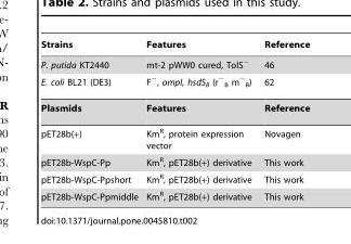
<table><thead><tr><td>Strains</td><td>Features</td><td>Reference</td></tr></thead><tbody><tr><td>P. putida KT2440</td><td>mt-2 pWW0 cured, TolS<sup>−</sup></td><td>46</td></tr><tr><td>E. coli BL21 (DE3)</td><td>F<sup>−</sup>, ompI, hsdS<sub>B</sub> (r<sup>−</sup> <sub>B</sub> m<sup>−</sup> <sub>B</sub>)</td><td>62</td></tr><tr><td>Plasmids</td><td>Features</td><td>Reference</td></tr><tr><td>pET28b(+)</td><td>Km<sup>R</sup>, protein expression vector</td><td>Novagen</td></tr><tr><td>pET28b-WspC-Pp</td><td>Km<sup>R</sup>, pET28b(+) derivative</td><td>This work</td></tr><tr><td>pET28b-WspC-Ppshort</td><td>Km<sup>R</sup>, pET28b(+) derivative</td><td>This work</td></tr><tr><td>pET28b-WspC-Ppmiddle</td><td>Km<sup>R</sup>, pET28b(+) derivative</td><td>This work</td></tr></tbody></table>